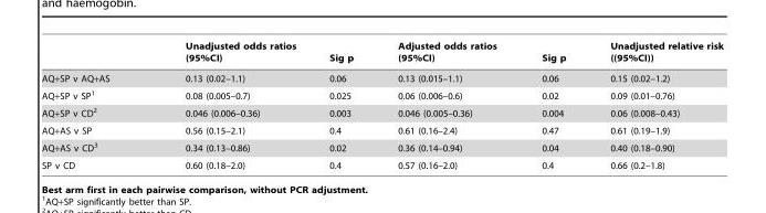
<table><thead><tr><td></td><td>Unadjusted odds ratios (95%CI)</td><td>Sig p</td><td>Adjusted odds ratios (95%CI)</td><td>Sig p</td><td>Unadjusted relative risk ((95%CI))</td></tr></thead><tbody><tr><td>AQ+SP v AQ+AS</td><td>0.13 (0.02–1.1)</td><td>0.06</td><td>0.13 (0.015–1.1)</td><td>0.06</td><td>0.15 (0.02–1.2)</td></tr><tr><td>AQ+SP v SP<sup>1</sup></td><td>0.08 (0.005–0.7)</td><td>0.025</td><td>0.06 (0.006–0.6)</td><td>0.02</td><td>0.09 (0.01–0.76)</td></tr><tr><td>AQ+SP v CD<sup>2</sup></td><td>0.046 (0.006–0.36)</td><td>0.003</td><td>0.046 (0.005–0.36)</td><td>0.004</td><td>0.06 (0.008–0.43)</td></tr><tr><td>AQ+AS v SP</td><td>0.56 (0.15–2.1)</td><td>0.4</td><td>0.61 (0.16–2.4)</td><td>0.47</td><td>0.61 (0.19–1.9)</td></tr><tr><td>AQ+AS v CD<sup>3</sup></td><td>0.34 (0.13–0.86)</td><td>0.02</td><td>0.36 (0.14–0.94)</td><td>0.04</td><td>0.40 (0.18–0.90)</td></tr><tr><td>SP v CD</td><td>0.60 (0.18–2.0)</td><td>0.4</td><td>0.57 (0.16–2.0)</td><td>0.4</td><td>0.66 (0.2–1.8)</td></tr></tbody></table>